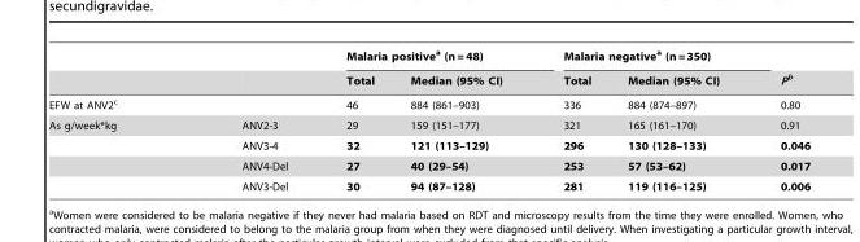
<table><thead><tr><td rowspan="2"></td><td rowspan="2"></td><td colspan="2">Malaria positive<sup>a</sup> (n = 48)</td><td colspan="2">Malaria negative<sup>a</sup> (n = 350)</td><td rowspan="2">Pb</td></tr><tr><td>Total</td><td>Median (95% CI)</td><td>Total</td><td>Median (95% CI)</td></tr></thead><tbody><tr><td>EFW at ANV2<sup>c</sup></td><td></td><td>46</td><td>884 (861–903)</td><td>336</td><td>884 (874–897)</td><td>0.80</td></tr><tr><td rowspan="4">As g/week*kg</td><td>ANV2-3</td><td>29</td><td>159 (151–177)</td><td>321</td><td>165 (161–170)</td><td>0.91</td></tr><tr><td>ANV3-4</td><td>32</td><td>121 (113–129)</td><td>296</td><td>130 (128–133)</td><td>0.046</td></tr><tr><td>ANV4-Del</td><td>27</td><td>40 (29–54)</td><td>253</td><td>57 (53–62)</td><td>0.017</td></tr><tr><td>ANV3-Del</td><td>30</td><td>94 (87–128)</td><td>281</td><td>119 (116–125)</td><td>0.006</td></tr></tbody></table>